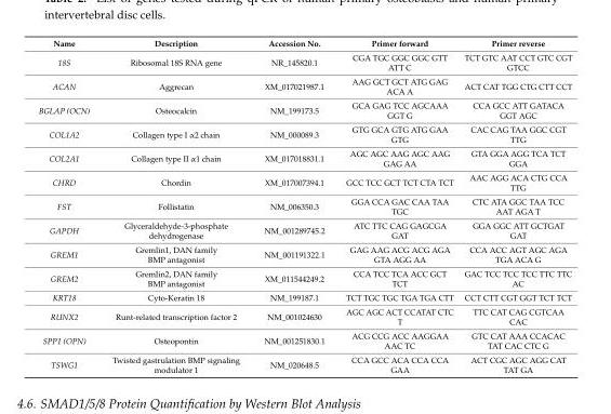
<table><thead><tr><td>Name</td><td>Description</td><td>Accession No.</td><td>Primer forward</td><td>Primer reverse</td></tr></thead><tbody><tr><td>18S</td><td>Ribosomal 18S RNA gene</td><td>NR_145820.1</td><td>CGA TGC GGC GGC GTT ATT C</td><td>TCT GTC AAT CCT GTC CGT GTCC</td></tr><tr><td>ACAN</td><td>Aggrecan</td><td>XM_017021987.1</td><td>AAG GCT GCT ATG GAG ACA A</td><td>ACT CAT TGG CTG CTT CCT</td></tr><tr><td>BGLAP (OCN)</td><td>Osteocalcin</td><td>NM_199173.5</td><td>GCA GAG TCC AGCAAA GGT G</td><td>CCA GCC ATT GATACA GGT AGC</td></tr><tr><td>COL1A2</td><td>Collagen type I α2 chain</td><td>NM_000089.3</td><td>GTG GCA GTG ATG GAA GTG</td><td>CAC CAG TAA GGC CGT TTG</td></tr><tr><td>COL2A1</td><td>Collagen type II α1 chain</td><td>XM_017018831.1</td><td>AGC AGC AAG AGC AAG GAG AA</td><td>GTA GGA AGG TCA TCT GGA</td></tr><tr><td>CHRD</td><td>Chordin</td><td>XM_017007394.1</td><td>GCC TCC GCT TCT CTA TCT</td><td>AAC AGG ACA CTG CCA TTG</td></tr><tr><td>FST</td><td>Follistatin</td><td>NM_006350.3</td><td>GGA CCA GAC CAA TAA TGC</td><td>CTC ATA GGC TAA TCC AAT AGA T</td></tr><tr><td>GAPDH</td><td>Glyceraldehyde-3-phosphate dehydrogenase</td><td>NM_001289745.2</td><td>ATC TTC CAG GAGCGA GAT</td><td>GGA GGC ATT GCTGAT GAT</td></tr><tr><td>GREM1</td><td>Gremlin1, DAN family BMP antagonist</td><td>NM_001191322.1</td><td>GAG AAG ACG ACG AGA GTA AGG AA</td><td>CCA ACC AGT AGC AGA TGA ACA G</td></tr><tr><td>GREM2</td><td>Gremlin2, DAN family BMP antagonist</td><td>XM_011544249.2</td><td>CCA TCC TCA ACC GCT TCT</td><td>GAC TCC TCC TCC TTC TTC AC</td></tr><tr><td>KRT18</td><td>Cyto-Keratin 18</td><td>NM_199187.1</td><td>TCT TGC TGC TGA TGA CTT</td><td>CCT CTT CGT GGT TCT TCT</td></tr><tr><td>RUNX2</td><td>Runt-related transcription factor 2</td><td>NM_001024630</td><td>AGC AGC ACT CCATAT CTC T</td><td>TTC CAT CAG CGTCAA CAC</td></tr><tr><td>SPP1 (OPN)</td><td>Osteopontin</td><td>NM_001251830.1</td><td>ACG CCG ACC AAGGAA AAC TC</td><td>GTC CAT AAA CCACAC TAT CAC CTC G</td></tr><tr><td>TSWG1</td><td>Twisted gastrulation BMP signaling modulator 1</td><td>NM_020648.5</td><td>CCA GCC ACA CCA CCA GAA</td><td>ACT CGC AGC AGG CAT TAT GA</td></tr></tbody></table>